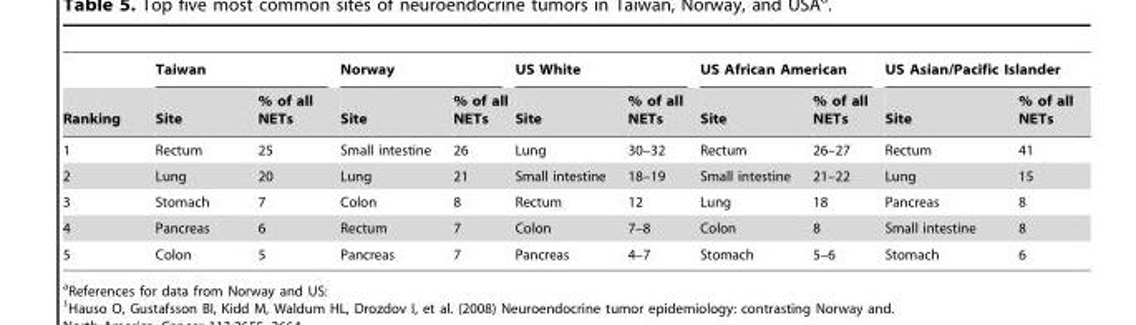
<table><thead><tr><td rowspan="2">Ranking</td><td colspan="2">Taiwan</td><td colspan="2">Norway</td><td colspan="2">US White</td><td colspan="2">US African American</td><td colspan="2">US Asian/Pacific Islander</td></tr><tr><td>Site</td><td>% of all NETs</td><td>Site</td><td>% of all NETs</td><td>Site</td><td>% of all NETs</td><td>Site</td><td>% of all NETs</td><td>Site</td><td>% of all NETs</td></tr></thead><tbody><tr><td>1</td><td>Rectum</td><td>25</td><td>Small intestine</td><td>26</td><td>Lung</td><td>30–32</td><td>Rectum</td><td>26–27</td><td>Rectum</td><td>41</td></tr><tr><td>2</td><td>Lung</td><td>20</td><td>Lung</td><td>21</td><td>Small intestine</td><td>18–19</td><td>Small intestine</td><td>21–22</td><td>Lung</td><td>15</td></tr><tr><td>3</td><td>Stomach</td><td>7</td><td>Colon</td><td>8</td><td>Rectum</td><td>12</td><td>Lung</td><td>18</td><td>Pancreas</td><td>8</td></tr><tr><td>4</td><td>Pancreas</td><td>6</td><td>Rectum</td><td>7</td><td>Colon</td><td>7–8</td><td>Colon</td><td>8</td><td>Small intestine</td><td>8</td></tr><tr><td>5</td><td>Colon</td><td>5</td><td>Pancreas</td><td>7</td><td>Pancreas</td><td>4–7</td><td>Stomach</td><td>5–6</td><td>Stomach</td><td>6</td></tr></tbody></table>